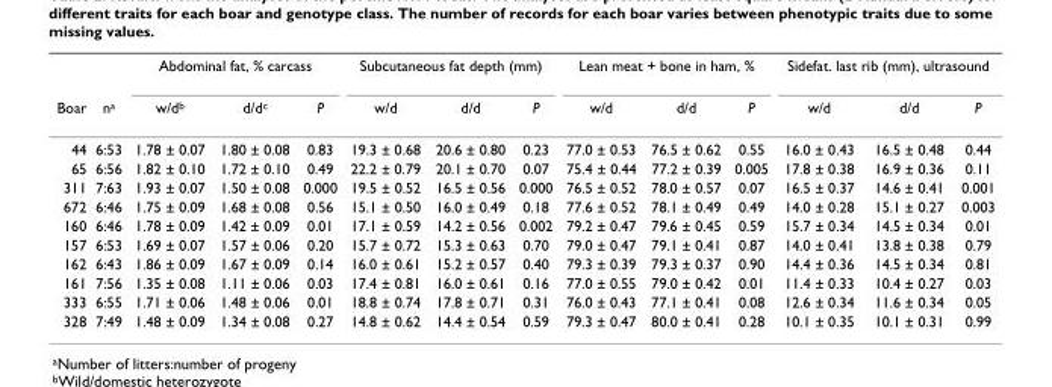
<table><thead><tr><td rowspan="2">Boar</td><td rowspan="2">n<sup>a</sup></td><td colspan="3">Abdominal fat, % carcass</td><td colspan="3">Subcutaneous fat depth (mm)</td><td colspan="3">Lean meat + bone in ham, %</td><td colspan="3">Sidefat. last rib (mm), ultrasound</td></tr><tr><td>w/d<sup>b</sup></td><td>d/d<sup>c</sup></td><td>P</td><td>w/d</td><td>d/d</td><td>P</td><td>w/d</td><td>d/d</td><td>P</td><td>w/d</td><td>d/d</td><td>P</td></tr></thead><tbody><tr><td>44</td><td>6:53</td><td>1.78 ± 0.07</td><td>1.80 ± 0.08</td><td>0.83</td><td>19.3 ± 0.68</td><td>20.6 ± 0.80</td><td>0.23</td><td>77.0 ± 0.53</td><td>76.5 ± 0.62</td><td>0.55</td><td>16.0 ± 0.43</td><td>16.5 ± 0.48</td><td>0.44</td></tr><tr><td>65</td><td>6:56</td><td>1.82 ± 0.10</td><td>1.72 ± 0.10</td><td>0.49</td><td>22.2 ± 0.79</td><td>20.1 ± 0.70</td><td>0.07</td><td>75.4 ± 0.44</td><td>77.2 ± 0.39</td><td>0.005</td><td>17.8 ± 0.38</td><td>16.9 ± 0.36</td><td>0.11</td></tr><tr><td>311</td><td>7:63</td><td>1.93 ± 0.07</td><td>1.50 ± 0.08</td><td>0.000</td><td>19.5 ± 0.52</td><td>16.5 ± 0.56</td><td>0.000</td><td>76.5 ± 0.52</td><td>78.0 ± 0.57</td><td>0.07</td><td>16.5 ± 0.37</td><td>14.6 ± 0.41</td><td>0.001</td></tr><tr><td>672</td><td>6:46</td><td>1.75 ± 0.09</td><td>1.68 ± 0.08</td><td>0.56</td><td>15.1 ± 0.50</td><td>16.0 ± 0.49</td><td>0.18</td><td>77.6 ± 0.52</td><td>78.1 ± 0.49</td><td>0.49</td><td>14.0 ± 0.28</td><td>15.1 ± 0.27</td><td>0.003</td></tr><tr><td>160</td><td>6:46</td><td>1.78 ± 0.09</td><td>1.42 ± 0.09</td><td>0.01</td><td>17.1 ± 0.59</td><td>14.2 ± 0.56</td><td>0.002</td><td>79.2 ± 0.47</td><td>79.6 ± 0.45</td><td>0.59</td><td>15.7 ± 0.34</td><td>14.5 ± 0.34</td><td>0.01</td></tr><tr><td>157</td><td>6:53</td><td>1.69 ± 0.07</td><td>1.57 ± 0.06</td><td>0.20</td><td>15.7 ± 0.72</td><td>15.3 ± 0.63</td><td>0.70</td><td>79.0 ± 0.47</td><td>79.1 ± 0.41</td><td>0.87</td><td>14.0 ± 0.41</td><td>13.8 ± 0.38</td><td>0.79</td></tr><tr><td>162</td><td>6:43</td><td>1.86 ± 0.09</td><td>1.67 ± 0.09</td><td>0.14</td><td>16.0 ± 0.61</td><td>15.2 ± 0.57</td><td>0.40</td><td>79.3 ± 0.39</td><td>79.3 ± 0.37</td><td>0.90</td><td>14.4 ± 0.36</td><td>14.5 ± 0.34</td><td>0.81</td></tr><tr><td>161</td><td>7:56</td><td>1.35 ± 0.08</td><td>1.11 ± 0.06</td><td>0.03</td><td>17.4 ± 0.81</td><td>16.0 ± 0.61</td><td>0.16</td><td>77.0 ± 0.55</td><td>79.0 ± 0.42</td><td>0.01</td><td>11.4 ± 0.33</td><td>10.4 ± 0.27</td><td>0.03</td></tr><tr><td>333</td><td>6:55</td><td>1.71 ± 0.06</td><td>1.48 ± 0.06</td><td>0.01</td><td>18.8 ± 0.74</td><td>17.8 ± 0.71</td><td>0.31</td><td>76.0 ± 0.43</td><td>77.1 ± 0.41</td><td>0.08</td><td>12.6 ± 0.34</td><td>11.6 ± 0.34</td><td>0.05</td></tr><tr><td>328</td><td>7:49</td><td>1.48 ± 0.09</td><td>1.34 ± 0.08</td><td>0.27</td><td>14.8 ± 0.62</td><td>14.4 ± 0.54</td><td>0.59</td><td>79.3 ± 0.47</td><td>80.0 ± 0.41</td><td>0.28</td><td>10.1 ± 0.35</td><td>10.1 ± 0.31</td><td>0.99</td></tr></tbody></table>